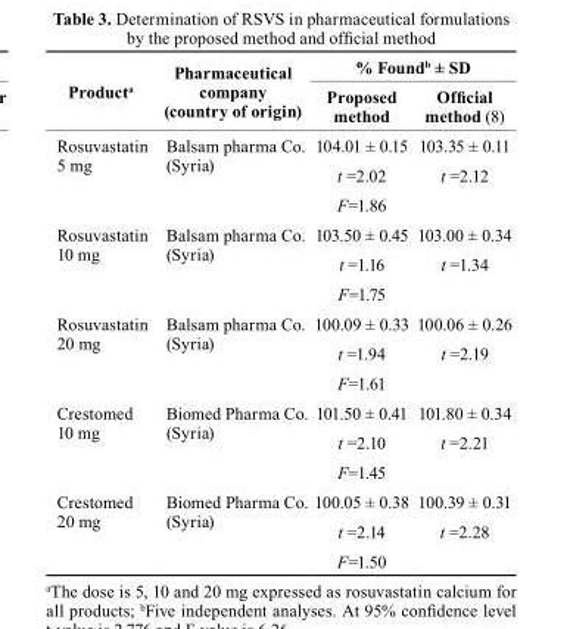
<table><thead><tr><td rowspan="2">Product<sup>a</sup></td><td rowspan="2">Pharmaceutical company (country of origin)</td><td colspan="2">% Found<sup>b</sup> ± sD</td></tr><tr><td>Proposed method</td><td>Official method (8)</td></tr></thead><tbody><tr><td rowspan="3">Rosuvastatin 5 mg</td><td rowspan="3">Balsam pharma Co. (Syria)</td><td>104.01 ± 0.15</td><td>103.35 ± 0.11</td></tr><tr><td>t =2.02</td><td>t =2.12</td></tr><tr><td>F=1.86</td><td></td></tr><tr><td rowspan="3">Rosuvastatin 10 mg</td><td rowspan="3">Balsam pharma Co. (Syria)</td><td>103.50 ± 0.45</td><td>103.00 ± 0.34</td></tr><tr><td>t =1.16</td><td>t =1.34</td></tr><tr><td>F=1.75</td><td></td></tr><tr><td rowspan="3">Rosuvastatin 20 mg</td><td rowspan="3">Balsam pharma Co. (Syria)</td><td>100.09 ± 0.33</td><td>100.06 ± 0.26</td></tr><tr><td>t =1.94</td><td>t =2.19</td></tr><tr><td>F=1.61</td><td></td></tr><tr><td rowspan="3">Crestomed 10 mg</td><td rowspan="3">Biomed Pharma Co. (Syria)</td><td>101.50 ± 0.41</td><td>101.80 ± 0.34</td></tr><tr><td>t =2.10</td><td>t =2.21</td></tr><tr><td>F=1.45</td><td></td></tr><tr><td rowspan="3">Crestomed 20 mg</td><td rowspan="3">Biomed Pharma Co. (Syria)</td><td>100.05 ± 0.38</td><td>100.39 ± 0.31</td></tr><tr><td>t =2.14</td><td>t =2.28</td></tr><tr><td>F=1.50</td><td></td></tr></tbody></table>